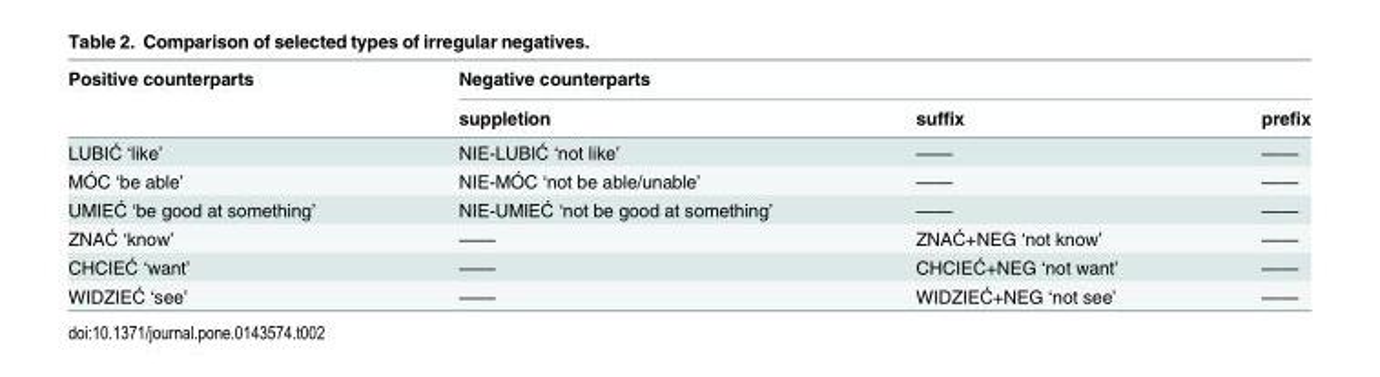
<table><thead><tr><td rowspan="2">Positive counterparts</td><td colspan="3">Negative counterparts</td></tr><tr><td>suppletion</td><td>suffix</td><td>prefix</td></tr></thead><tbody><tr><td>LUBIĆ ‘like’</td><td>NIE-LUBIĆ ‘not like’</td><td>——</td><td>——</td></tr><tr><td>MÓC ‘be able’</td><td>NIE-MÓC ‘not be able/unable’</td><td>——</td><td>——</td></tr><tr><td>UMIEĆ ‘be good at something’</td><td>NIE-UMIEĆ ‘not be good at something’</td><td>——</td><td>——</td></tr><tr><td>ZNAĆ ‘know’</td><td>——</td><td>ZNAĆ+NEG ‘not know’</td><td>——</td></tr><tr><td>CHCIEĆ ‘want’</td><td>——</td><td>CHCIEĆ+NEG ‘not want’</td><td>——</td></tr><tr><td>WIDZIEĆ ‘see’</td><td>——</td><td>WIDZIEĆ+NEG ‘not see’</td><td>——</td></tr></tbody></table>